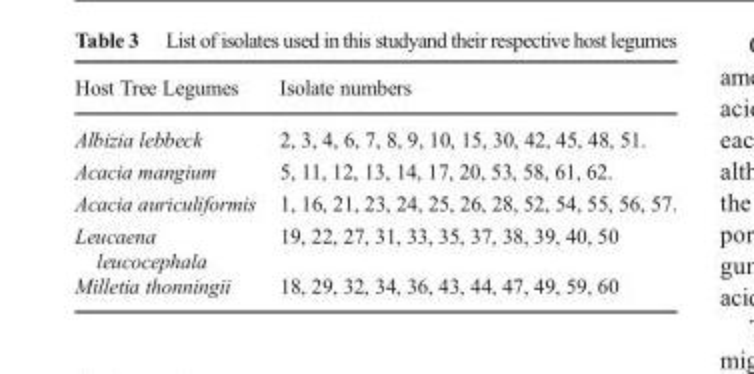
<table><thead><tr><td>Host Tree Legumes</td><td>Isolate numbers</td></tr></thead><tbody><tr><td>Albizia lebbeck</td><td>2, 3, 4, 6, 7, 8, 9, 10, 15, 30, 42, 45, 48, 51.</td></tr><tr><td>Acacia mangium</td><td>5, 11, 12, 13, 14, 17, 20, 53, 58, 61, 62.</td></tr><tr><td>Acacia auriculiformis</td><td>1, 16, 21, 23, 24, 25, 26, 28, 52, 54, 55, 56, 57.</td></tr><tr><td>Leucaena leucocephala</td><td>19, 22, 27, 31, 33, 35, 37, 38, 39, 40, 50</td></tr><tr><td>Milletia thonningii</td><td>18, 29, 32, 34, 36, 43, 44, 47, 49, 59, 60</td></tr></tbody></table>